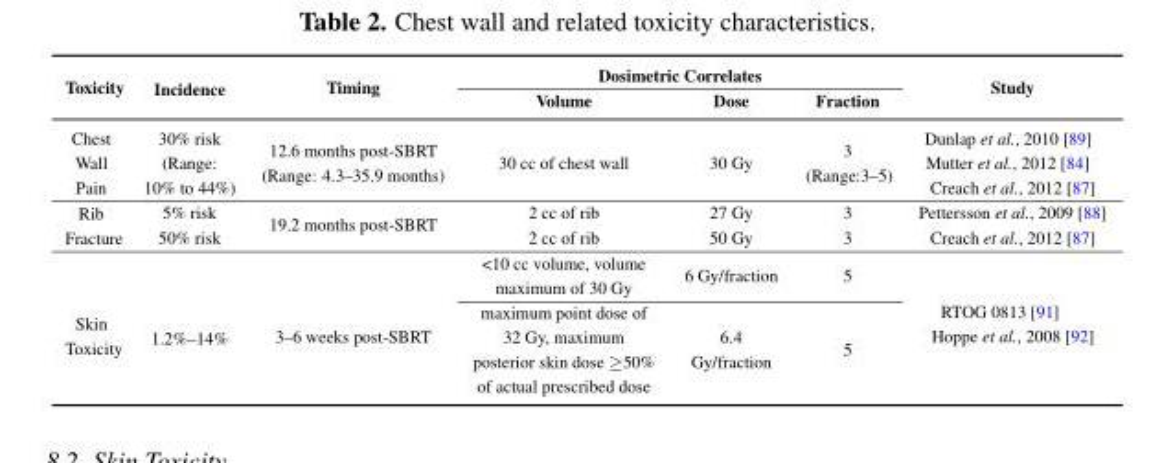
<table><thead><tr><td rowspan="2">Toxicity</td><td rowspan="2">Incidence</td><td rowspan="2">Timing</td><td colspan="3">Dosimetric Correlates</td><td rowspan="2">Study</td></tr><tr><td>Volume</td><td>Dose</td><td>Fraction</td></tr></thead><tbody><tr><td>Chest Wall Pain</td><td>30% risk (Range: 10% to 44%)</td><td>12.6 months post-SBRT (Range: 4.3–35.9 months)</td><td>30 cc of chest wall</td><td>30 Gy</td><td>3 (Range:3–5)</td><td>Dunlap et al., 2010 [89] Mutter et al., 2012 [84] Creach et al., 2012 [87]</td></tr><tr><td rowspan="2">Rib Fracture</td><td>5% risk</td><td rowspan="2">19.2 months post-SBRT</td><td>2 cc of rib</td><td>27 Gy</td><td>3</td><td>Pettersson et al., 2009 [88]</td></tr><tr><td>50% risk</td><td>2 cc of rib</td><td>50 Gy</td><td>3</td><td>Creach et al., 2012 [87]</td></tr><tr><td rowspan="2">Skin Toxicity</td><td rowspan="2">1.2%–14%</td><td rowspan="2">3–6 weeks post-SBRT</td><td>&lt;10 cc volume, volume maximum of 30 Gy</td><td>6 Gy/fraction</td><td>5</td><td rowspan="2">RTOG 0813 [91] Hoppe et al., 2008 [92]</td></tr><tr><td>maximum point dose of 32 Gy, maximum posterior skin dose ≥50% of actual prescribed dose</td><td>6.4 Gy/fraction</td><td>5</td></tr></tbody></table>